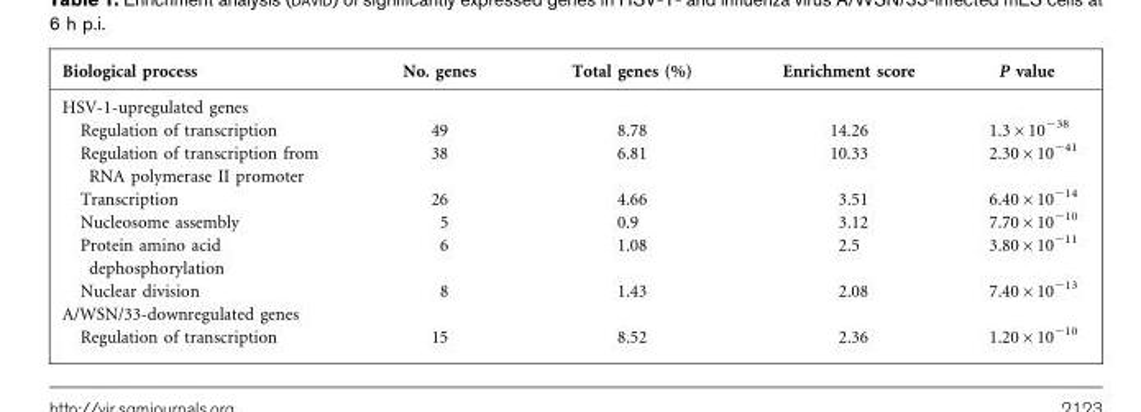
<table><thead><tr><td>Biological process</td><td>No. genes</td><td>Total genes (%)</td><td>Enrichment score</td><td>P value</td></tr></thead><tbody><tr><td colspan="5">HSV-1-upregulated genes</td></tr><tr><td>Regulation of transcription</td><td>49</td><td>8.78</td><td>14.26</td><td>1.3×10<sup>−38</sup></td></tr><tr><td>Regulation of transcription from RNA polymerase II promoter</td><td>38</td><td>6.81</td><td>10.33</td><td>2.30×10<sup>−41</sup></td></tr><tr><td>Transcription</td><td>26</td><td>4.66</td><td>3.51</td><td>6.40×10<sup>−14</sup></td></tr><tr><td>Nucleosome assembly</td><td>5</td><td>0.9</td><td>3.12</td><td>7.70×10<sup>−10</sup></td></tr><tr><td>Protein amino acid dephosphorylation</td><td>6</td><td>1.08</td><td>2.5</td><td>3.80×10<sup>−11</sup></td></tr><tr><td>Nuclear division</td><td>8</td><td>1.43</td><td>2.08</td><td>7.40×10<sup>−13</sup></td></tr><tr><td colspan="5">A/WSN/33-downregulated genes</td></tr><tr><td>Regulation of transcription</td><td>15</td><td>8.52</td><td>2.36</td><td>1.20×10<sup>−10</sup></td></tr></tbody></table>